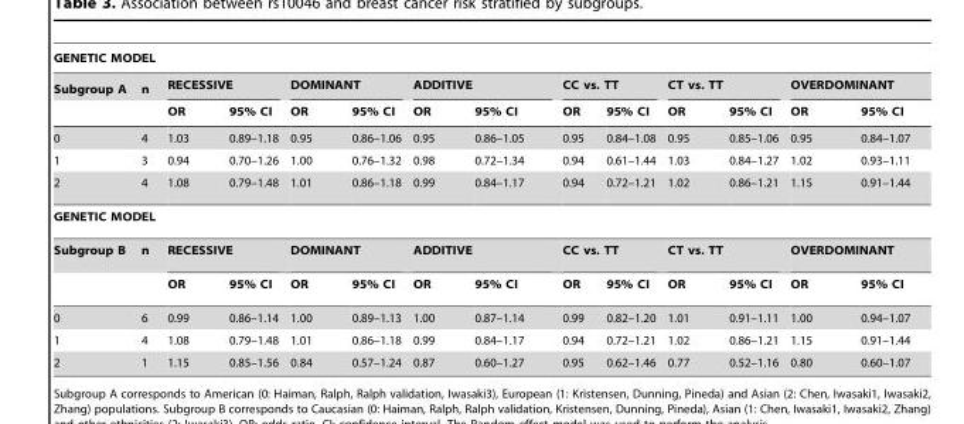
<table><thead><tr><td colspan="14">GENETIC MODEL</td></tr><tr><td rowspan="2">Subgroup A</td><td rowspan="2">n</td><td colspan="2">RECESSIVE</td><td colspan="2">DOMINANT</td><td colspan="2">ADDITIVE</td><td colspan="2">CC vs. TT</td><td colspan="2">CT vs. TT</td><td colspan="2">OVERDOMINANT</td></tr><tr><td>OR</td><td>95% CI</td><td>OR</td><td>95% CI</td><td>OR</td><td>95% CI</td><td>OR</td><td>95% CI</td><td>OR</td><td>95% CI</td><td>OR</td><td>95% CI</td></tr></thead><tbody><tr><td>0</td><td>4</td><td>1.03</td><td>0.89–1.18</td><td>0.95</td><td>0.86–1.06</td><td>0.95</td><td>0.86–1.05</td><td>0.95</td><td>0.84–1.08</td><td>0.95</td><td>0.85–1.06</td><td>0.95</td><td>0.84–1.07</td></tr><tr><td>1</td><td>3</td><td>0.94</td><td>0.70–1.26</td><td>1.00</td><td>0.76–1.32</td><td>0.98</td><td>0.72–1.34</td><td>0.94</td><td>0.61–1.44</td><td>1.03</td><td>0.84–1.27</td><td>1.02</td><td>0.93–1.11</td></tr><tr><td>2</td><td>4</td><td>1.08</td><td>0.79–1.48</td><td>1.01</td><td>0.86–1.18</td><td>0.99</td><td>0.84–1.17</td><td>0.94</td><td>0.72–1.21</td><td>1.02</td><td>0.86–1.21</td><td>1.15</td><td>0.91–1.44</td></tr><tr><td colspan="14">GENETIC MODEL</td></tr><tr><td rowspan="2">Subgroup B</td><td>n</td><td colspan="2">RECESSIVE</td><td colspan="2">DOMINANT</td><td colspan="2">ADDITIVE</td><td colspan="2">CC vs. TT</td><td colspan="2">CT vs. TT</td><td colspan="2">OVERDOMINANT</td></tr><tr><td></td><td>OR</td><td>95% CI</td><td>OR</td><td>95% CI</td><td>OR</td><td>95% CI</td><td>OR</td><td>95% CI</td><td>OR</td><td>95% CI</td><td>OR</td><td>95% CI</td></tr><tr><td>0</td><td>6</td><td>0.99</td><td>0.86–1.14</td><td>1.00</td><td>0.89–1.13</td><td>1.00</td><td>0.87–1.14</td><td>0.99</td><td>0.82–1.20</td><td>1.01</td><td>0.91–1.11</td><td>1.00</td><td>0.94–1.07</td></tr><tr><td>1</td><td>4</td><td>1.08</td><td>0.79–1.48</td><td>1.01</td><td>0.86–1.18</td><td>0.99</td><td>0.84–1.17</td><td>0.94</td><td>0.72–1.21</td><td>1.02</td><td>0.86–1.21</td><td>1.15</td><td>0.91–1.44</td></tr><tr><td>2</td><td>1</td><td>1.15</td><td>0.85–1.56</td><td>0.84</td><td>0.57–1.24</td><td>0.87</td><td>0.60–1.27</td><td>0.95</td><td>0.62–1.46</td><td>0.77</td><td>0.52–1.16</td><td>0.80</td><td>0.60–1.07</td></tr></tbody></table>